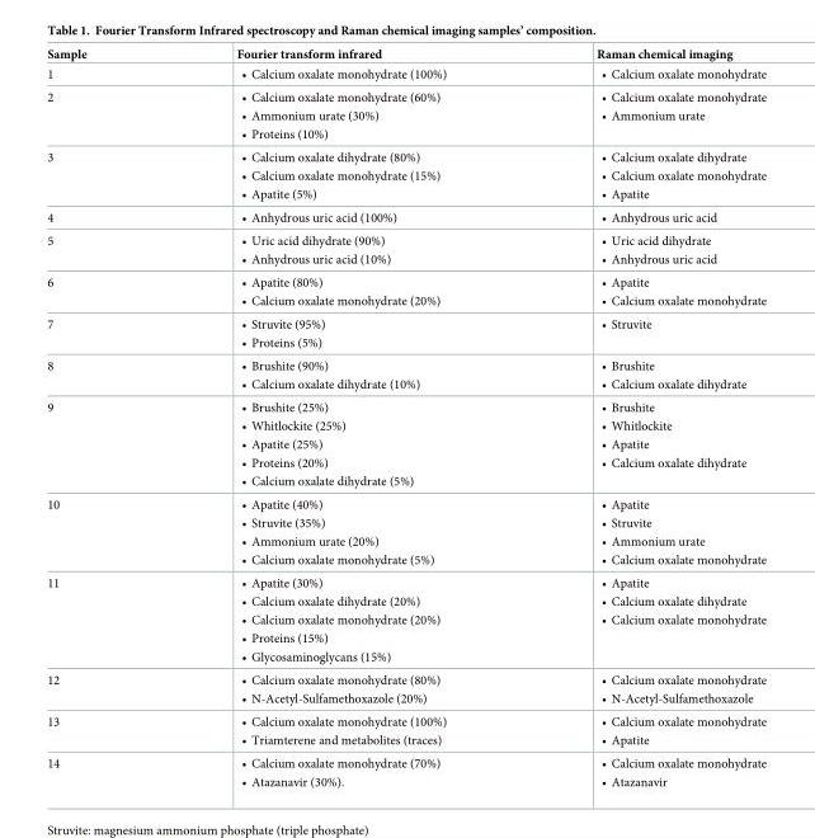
<table><thead><tr><td>Sample</td><td>Fourier transform infrared</td><td>Raman chemical imaging</td></tr></thead><tbody><tr><td>1</td><td>• Calcium oxalate monohydrate (100%)</td><td>• Calcium oxalate monohydrate</td></tr><tr><td>2</td><td>• Calcium oxalate monohydrate (60%) • Ammonium urate (30%) • Proteins (10%)</td><td>• Calcium oxalate monohydrate • Ammonium urate</td></tr><tr><td>3</td><td>• Calcium oxalate dihydrate (80%) • Calcium oxalate monohydrate (15%) • Apatite (5%)</td><td>• Calcium oxalate dihydrate • Calcium oxalate monohydrate • Apatite</td></tr><tr><td>4</td><td>• Anhydrous uric acid (100%)</td><td>• Anhydrous uric acid</td></tr><tr><td>5</td><td>• Uric acid dihydrate (90%) • Anhydrous uric acid (10%)</td><td>• Uric acid dihydrate • Anhydrous uric acid</td></tr><tr><td>6</td><td>• Apatite (80%) • Calcium oxalate monohydrate (20%)</td><td>• Apatite • Calcium oxalate monohydrate</td></tr><tr><td>7</td><td>• Struvite (95%) • Proteins (5%)</td><td>• Struvite</td></tr><tr><td>8</td><td>• Brushite (90%) • Calcium oxalate dihydrate (10%)</td><td>• Brushite • Calcium oxalate dihydrate</td></tr><tr><td>9</td><td>• Brushite (25%) • Whitlockite (25%) • Apatite (25%) • Proteins (20%) • Calcium oxalate dihydrate (5%)</td><td>• Brushite • Whitlockite • Apatite • Calcium oxalate dihydrate</td></tr><tr><td>10</td><td>• Apatite (40%) • Struvite (35%) • Ammonium urate (20%) • Calcium oxalate monohydrate (5%)</td><td>• Apatite • Struvite • Ammonium urate • Calcium oxalate monohydrate</td></tr><tr><td>11</td><td>• Apatite (30%) • Calcium oxalate dihydrate (20%) • Calcium oxalate monohydrate (20%) • Proteins (15%) • Glycosaminoglycans (15%)</td><td>• Apatite • Calcium oxalate dihydrate • Calcium oxalate monohydrate</td></tr><tr><td>12</td><td>• Calcium oxalate monohydrate (80%) • N-Acetyl-Sulfamethoxazole (20%)</td><td>• Calcium oxalate monohydrate • N-Acetyl-Sulfamethoxazole</td></tr><tr><td>13</td><td>• Calcium oxalate monohydrate (100%) • Triamterene and metabolites (traces)</td><td>• Calcium oxalate monohydrate • Apatite</td></tr><tr><td>14</td><td>• Calcium oxalate monohydrate (70%) • Atazanavir (30%).</td><td>• Calcium oxalate monohydrate • Atazanavir</td></tr></tbody></table>